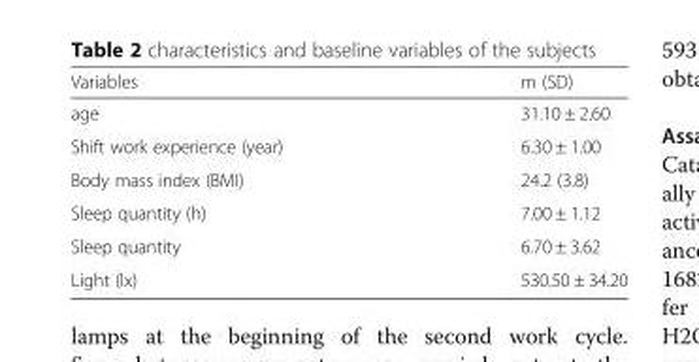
<table><thead><tr><td>Variables</td><td>m (SD)</td></tr></thead><tbody><tr><td>age</td><td>31.10 ± 2.60</td></tr><tr><td>Shift work experience (year)</td><td>6.30 ± 1.00</td></tr><tr><td>Body mass index (BMI)</td><td>24.2 (3.8)</td></tr><tr><td>Sleep quantity (h)</td><td>7.00 ± 1.12</td></tr><tr><td>Sleep quantity</td><td>6.70 ± 3.62</td></tr><tr><td>Light (lx)</td><td>530.50 ± 34.20</td></tr></tbody></table>